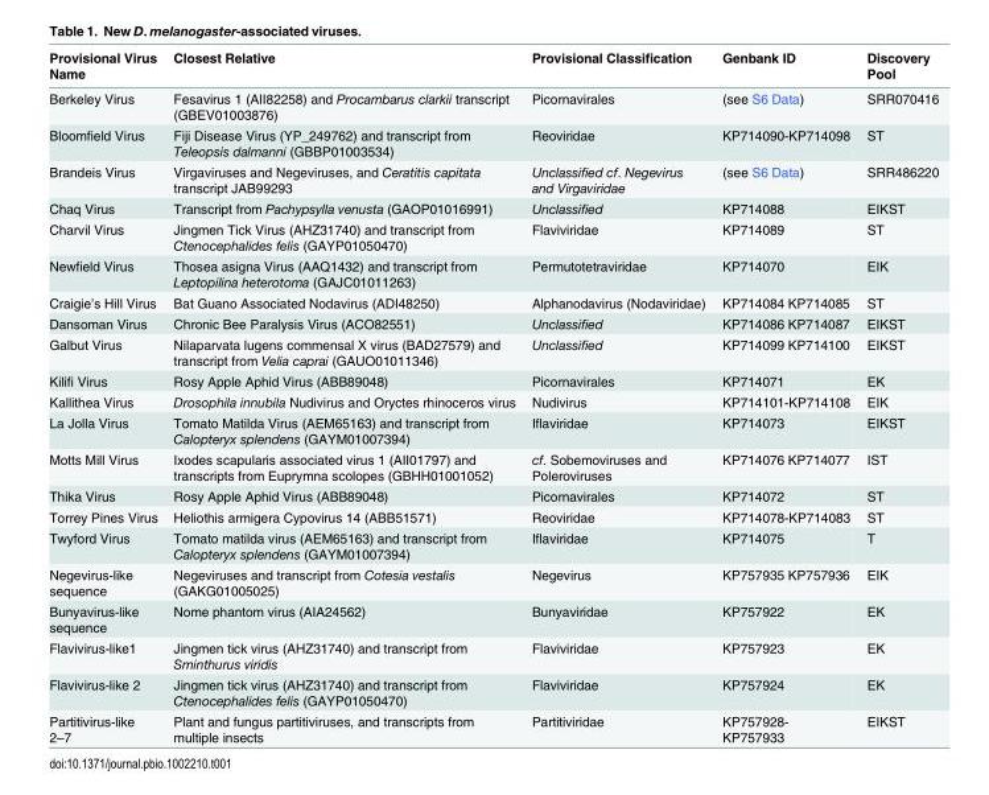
<table><thead><tr><td>Provisional Virus Name</td><td>Closest Relative</td><td>Provisional Classification</td><td>Genbank ID</td><td>Discovery Pool</td></tr></thead><tbody><tr><td>Berkeley Virus</td><td>Fesavirus 1 (AII82258) and Procambarus clarkii transcript (GBEV01003876)</td><td>Picornavirales</td><td>(see S6 Data)</td><td>SRR070416</td></tr><tr><td>Bloomfield Virus</td><td>Fiji Disease Virus (YP_249762) and transcript from Teleopsis dalmanni (GBBP01003534)</td><td>Reoviridae</td><td>KP714090-KP714098</td><td>ST</td></tr><tr><td>Brandeis Virus</td><td>Virgaviruses and Negeviruses, and Ceratitis capitata transcript JAB99293</td><td>Unclassified cf. Negevirus and Virgaviridae</td><td>(see S6 Data)</td><td>SRR486220</td></tr><tr><td>Chaq Virus</td><td>Transcript from Pachypsylla venusta (GAOP01016991)</td><td>Unclassified</td><td>KP714088</td><td>EIKST</td></tr><tr><td>Charvil Virus</td><td>Jingmen Tick Virus (AHZ31740) and transcript from Ctenocephalides felis (GAYP01050470)</td><td>Flaviviridae</td><td>KP714089</td><td>ST</td></tr><tr><td>Newfield Virus</td><td>Thosea asigna Virus (AAQ1432) and transcript from Leptopilina heterotoma (GAJC01011263)</td><td>Permutotetraviridae</td><td>KP714070</td><td>EIK</td></tr><tr><td>Craigie’s Hill Virus</td><td>Bat Guano Associated Nodavirus (ADI48250)</td><td>Alphanodavirus (Nodaviridae)</td><td>KP714084 KP714085</td><td>ST</td></tr><tr><td>Dansoman Virus</td><td>Chronic Bee Paralysis Virus (ACO82551)</td><td>Unclassified</td><td>KP714086 KP714087</td><td>EIKST</td></tr><tr><td>Galbut Virus</td><td>Nilaparvata lugens commensal X virus (BAD27579) and transcript from Velia caprai (GAUO01011346)</td><td>Unclassified</td><td>KP714099 KP714100</td><td>EIKST</td></tr><tr><td>Kilifi Virus</td><td>Rosy Apple Aphid Virus (ABB89048)</td><td>Picornavirales</td><td>KP714071</td><td>EK</td></tr><tr><td>Kallithea Virus</td><td>Drosophila innubila Nudivirus and Oryctes rhinoceros virus</td><td>Nudivirus</td><td>KP714101-KP714108</td><td>EIK</td></tr><tr><td>La Jolla Virus</td><td>Tomato Matilda Virus (AEM65163) and transcript from Calopteryx splendens (GAYM01007394)</td><td>Iflaviridae</td><td>KP714073</td><td>EIKST</td></tr><tr><td>Motts Mill Virus</td><td>Ixodes scapularis associated virus 1 (AII01797) and transcripts from Euprymna scolopes (GBHH01001052)</td><td>cf. Sobemoviruses and Poleroviruses</td><td>KP714076 KP714077</td><td>IST</td></tr><tr><td>Thika Virus</td><td>Rosy Apple Aphid Virus (ABB89048)</td><td>Picornavirales</td><td>KP714072</td><td>ST</td></tr><tr><td>Torrey Pines Virus</td><td>Heliothis armigera Cypovirus 14 (ABB51571)</td><td>Reoviridae</td><td>KP714078-KP714083</td><td>ST</td></tr><tr><td>Twyford Virus</td><td>Tomato matilda virus (AEM65163) and transcript from Calopteryx splendens (GAYM01007394)</td><td>Iflaviridae</td><td>KP714075</td><td>T</td></tr><tr><td>Negevirus-like sequence</td><td>Negeviruses and transcript from Cotesia vestalis (GAKG01005025)</td><td>Negevirus</td><td>KP757935 KP757936</td><td>EIK</td></tr><tr><td>Bunyavirus-like sequence</td><td>Nome phantom virus (AIA24562)</td><td>Bunyaviridae</td><td>KP757922</td><td>EK</td></tr><tr><td>Flavivirus-like1</td><td>Jingmen tick virus (AHZ31740) and transcript from Sminthurus viridis</td><td>Flaviviridae</td><td>KP757923</td><td>EK</td></tr><tr><td>Flavivirus-like 2</td><td>Jingmen tick virus (AHZ31740) and transcript from Ctenocephalides felis (GAYP01050470)</td><td>Flaviviridae</td><td>KP757924</td><td>EK</td></tr><tr><td>Partitivirus-like 2–7</td><td>Plant and fungus partitiviruses, and transcripts from multiple insects</td><td>Partitiviridae</td><td>KP757928- KP757933</td><td>EIKST</td></tr></tbody></table>